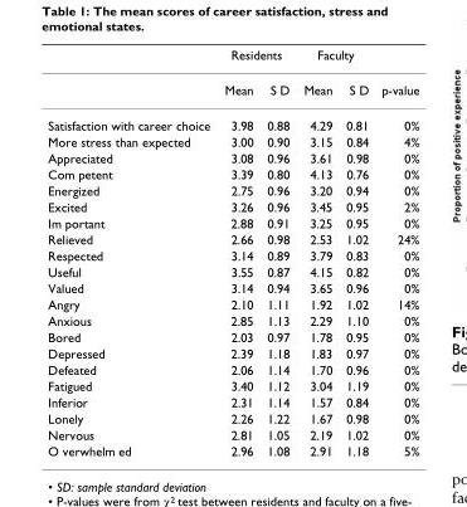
<table><thead><tr><td rowspan="2"></td><td colspan="2">Residents</td><td colspan="2">Faculty</td><td rowspan="2">p-value</td></tr><tr><td>Mean</td><td>S D</td><td>Mean</td><td>S D</td></tr></thead><tbody><tr><td>Satisfaction with career choice</td><td>3.98</td><td>0.88</td><td>4.29</td><td>0.81</td><td>0%</td></tr><tr><td>More stress than expected</td><td>3.00</td><td>0.90</td><td>3.15</td><td>0.84</td><td>4%</td></tr><tr><td>Appreciated</td><td>3.08</td><td>0.96</td><td>3.61</td><td>0.98</td><td>0%</td></tr><tr><td>Com petent</td><td>3.39</td><td>0.80</td><td>4.13</td><td>0.76</td><td>0%</td></tr><tr><td>Energized</td><td>2.75</td><td>0.96</td><td>3.20</td><td>0.94</td><td>0%</td></tr><tr><td>Excited</td><td>3.26</td><td>0.96</td><td>3.45</td><td>0.95</td><td>2%</td></tr><tr><td>Im portant</td><td>2.88</td><td>0.91</td><td>3.25</td><td>0.95</td><td>0%</td></tr><tr><td>Relieved</td><td>2.66</td><td>0.98</td><td>2.53</td><td>1.02</td><td>24%</td></tr><tr><td>Respected</td><td>3.14</td><td>0.89</td><td>3.79</td><td>0.83</td><td>0%</td></tr><tr><td>Useful</td><td>3.55</td><td>0.87</td><td>4.15</td><td>0.82</td><td>0%</td></tr><tr><td>Valued</td><td>3.14</td><td>0.94</td><td>3.65</td><td>0.96</td><td>0%</td></tr><tr><td>Angry</td><td>2.10</td><td>1.11</td><td>1.92</td><td>1.02</td><td>14%</td></tr><tr><td>Anxious</td><td>2.85</td><td>1.13</td><td>2.29</td><td>1.10</td><td>0%</td></tr><tr><td>Bored</td><td>2.03</td><td>0.97</td><td>1.78</td><td>0.95</td><td>0%</td></tr><tr><td>Depressed</td><td>2.39</td><td>1.18</td><td>1.83</td><td>0.97</td><td>0%</td></tr><tr><td>Defeated</td><td>2.06</td><td>1.14</td><td>1.70</td><td>0.96</td><td>0%</td></tr><tr><td>Fatigued</td><td>3.40</td><td>1.12</td><td>3.04</td><td>1.19</td><td>0%</td></tr><tr><td>Inferior</td><td>2.31</td><td>1.14</td><td>1.57</td><td>0.84</td><td>0%</td></tr><tr><td>Lonely</td><td>2.26</td><td>1.22</td><td>1.67</td><td>0.98</td><td>0%</td></tr><tr><td>Nervous</td><td>2.81</td><td>1.05</td><td>2.19</td><td>1.02</td><td>0%</td></tr><tr><td>O verwhelm ed</td><td>2.96</td><td>1.08</td><td>2.91</td><td>1.18</td><td>5%</td></tr></tbody></table>